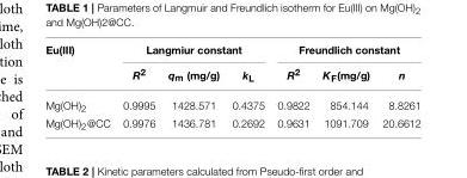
<table><thead><tr><td rowspan="2">Eu(III)</td><td colspan="3">Langmiur constant</td><td colspan="3">Freundlich constant</td></tr><tr><td>R<sup>2</sup></td><td>q<sub>m</sub> (mg/g)</td><td>k<sub>L</sub></td><td>R<sup>2</sup></td><td>K<sub>F</sub>(mg/g)</td><td>n</td></tr></thead><tbody><tr><td>Mg(OH)<sub>2</sub></td><td>0.9995</td><td>1428.571</td><td>0.4375</td><td>0.9822</td><td>854.144</td><td>8.8261</td></tr><tr><td>Mg(OH)<sub>2</sub>@CC</td><td>0.9976</td><td>1436.781</td><td>0.2692</td><td>0.9631</td><td>1091.709</td><td>20.6612</td></tr></tbody></table>